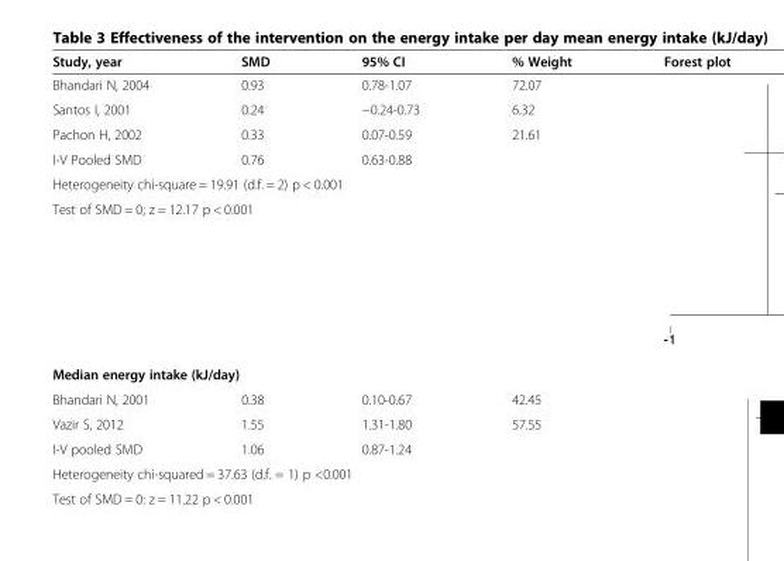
<table><thead><tr><td>Study, year</td><td>SMD</td><td>95% CI</td><td>% Weight</td><td>Forest plot</td></tr></thead><tbody><tr><td>Bhandari N, 2004</td><td>0.93</td><td>0.78-1.07</td><td>72.07</td><td rowspan="6"></td></tr><tr><td>Santos I, 2001</td><td>0.24</td><td>−0.24-0.73</td><td>6.32</td></tr><tr><td>Pachon H, 2002</td><td>0.33</td><td>0.07-0.59</td><td rowspan="2">21.61</td></tr><tr><td>I-V Pooled SMD</td><td>0.76</td><td>0.63-0.88</td></tr><tr><td colspan="4">Heterogeneity chi-square = 19.91 (d.f. = 2) p &lt; 0.001</td></tr><tr><td colspan="4">Test of SMD = 0; z = 12.17 p &lt; 0.001</td></tr><tr><td colspan="5">Median energy intake (kJ/day)</td></tr><tr><td>Bhandari N, 2001</td><td>0.38</td><td>0.10-0.67</td><td>42.45</td><td rowspan="4"></td></tr><tr><td>Vazir S, 2012</td><td>1.55</td><td>1.31-1.80</td><td rowspan="2">57.55</td></tr><tr><td>I-V pooled SMD</td><td>1.06</td><td>0.87-1.24</td></tr><tr><td colspan="4">Heterogeneity chi-squared = 37.63 (d.f. = 1) p &lt;0.001</td></tr><tr><td colspan="4">Test of SMD = 0: z = 11.22 p &lt; 0.001</td><td></td></tr></tbody></table>